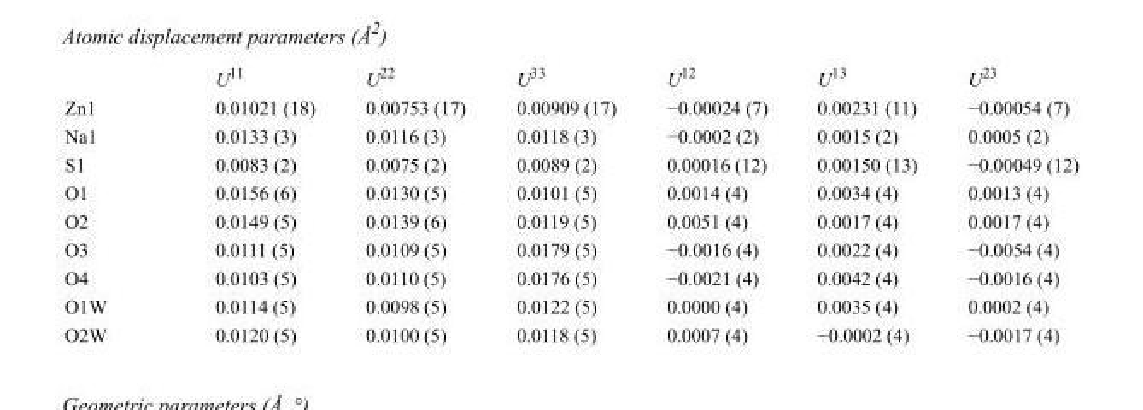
<table><thead><tr><td></td><td>U<sup>11</sup></td><td>U<sup>22</sup></td><td>U<sup>33</sup></td><td>U<sup>12</sup></td><td>U<sup>13</sup></td><td>U<sup>23</sup></td></tr></thead><tbody><tr><td>Zn1</td><td>0.01021 (18)</td><td>0.00753 (17)</td><td>0.00909 (17)</td><td>−0.00024 (7)</td><td>0.00231 (11)</td><td>−0.00054 (7)</td></tr><tr><td>Na1</td><td>0.0133 (3)</td><td>0.0116 (3)</td><td>0.0118 (3)</td><td>−0.0002 (2)</td><td>0.0015 (2)</td><td>0.0005 (2)</td></tr><tr><td>S1</td><td>0.0083 (2)</td><td>0.0075 (2)</td><td>0.0089 (2)</td><td>0.00016 (12)</td><td>0.00150 (13)</td><td>−0.00049 (12)</td></tr><tr><td>O1</td><td>0.0156 (6)</td><td>0.0130 (5)</td><td>0.0101 (5)</td><td>0.0014 (4)</td><td>0.0034 (4)</td><td>0.0013 (4)</td></tr><tr><td>O2</td><td>0.0149 (5)</td><td>0.0139 (6)</td><td>0.0119 (5)</td><td>0.0051 (4)</td><td>0.0017 (4)</td><td>0.0017 (4)</td></tr><tr><td>O3</td><td>0.0111 (5)</td><td>0.0109 (5)</td><td>0.0179 (5)</td><td>−0.0016 (4)</td><td>0.0022 (4)</td><td>−0.0054 (4)</td></tr><tr><td>O4</td><td>0.0103 (5)</td><td>0.0110 (5)</td><td>0.0176 (5)</td><td>−0.0021 (4)</td><td>0.0042 (4)</td><td>−0.0016 (4)</td></tr><tr><td>O1W</td><td>0.0114 (5)</td><td>0.0098 (5)</td><td>0.0122 (5)</td><td>0.0000 (4)</td><td>0.0035 (4)</td><td>0.0002 (4)</td></tr><tr><td>O2W</td><td>0.0120 (5)</td><td>0.0100 (5)</td><td>0.0118 (5)</td><td>0.0007 (4)</td><td>−0.0002 (4)</td><td>−0.0017 (4)</td></tr></tbody></table>